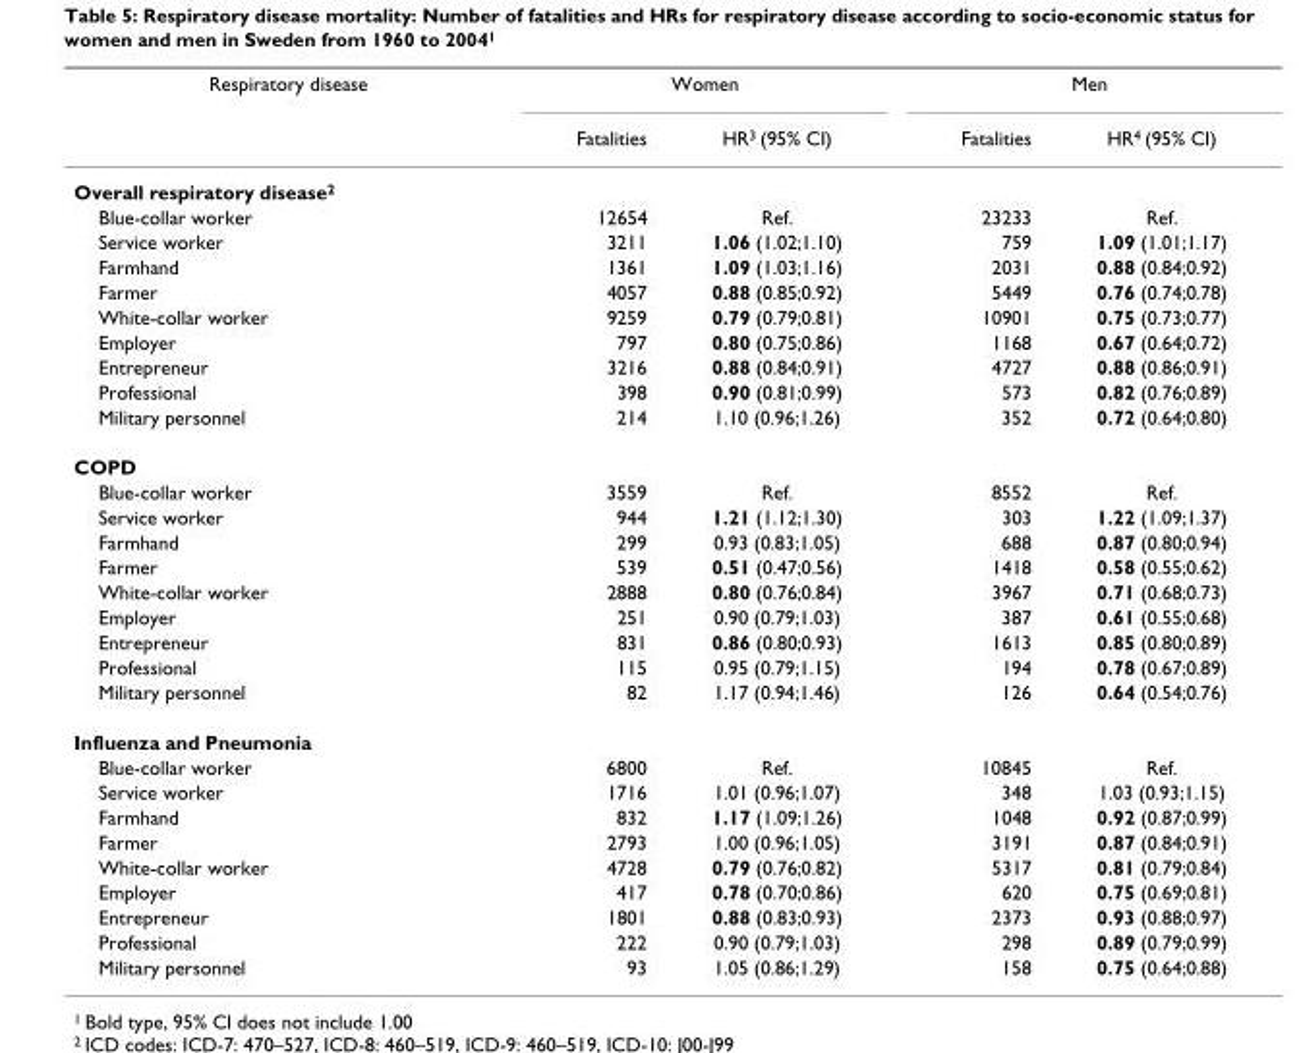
<table><thead><tr><td rowspan="2">Respiratory disease</td><td colspan="2">Women</td><td colspan="2">Men</td></tr><tr><td>Fatalities</td><td>HR<sup>3</sup> (95% CI)</td><td>Fatalities</td><td>HR<sup>4</sup> (95% CI)</td></tr></thead><tbody><tr><td colspan="5">Overall respiratory disease<sup>2</sup></td></tr><tr><td>Blue-collar worker</td><td>12654</td><td>Ref.</td><td>23233</td><td>Ref.</td></tr><tr><td>Service worker</td><td>3211</td><td>1.06 (1.02;1.10)</td><td>759</td><td>1.09 (1.01;1.17)</td></tr><tr><td>Farmhand</td><td>1361</td><td>1.09 (1.03;1.16)</td><td>2031</td><td>0.88 (0.84;0.92)</td></tr><tr><td>Farmer</td><td>4057</td><td>0.88 (0.85;0.92)</td><td>5449</td><td>0.76 (0.74;0.78)</td></tr><tr><td>White-collar worker</td><td>9259</td><td>0.79 (0.79;0.81)</td><td>10901</td><td>0.75 (0.73;0.77)</td></tr><tr><td>Employer</td><td>797</td><td>0.80 (0.75;0.86)</td><td>1168</td><td>0.67 (0.64;0.72)</td></tr><tr><td>Entrepreneur</td><td>3216</td><td>0.88 (0.84;0.91)</td><td>4727</td><td>0.88 (0.86;0.91)</td></tr><tr><td>Professional</td><td>398</td><td>0.90 (0.81;0.99)</td><td>573</td><td>0.82 (0.76;0.89)</td></tr><tr><td>Military personnel</td><td>214</td><td>1.10 (0.96;1.26)</td><td>352</td><td>0.72 (0.64;0.80)</td></tr><tr><td colspan="5">COPD</td></tr><tr><td>Blue-collar worker</td><td>3559</td><td>Ref.</td><td>8552</td><td>Ref.</td></tr><tr><td>Service worker</td><td>944</td><td>1.21 (1.12;1.30)</td><td>303</td><td>1.22 (1.09;1.37)</td></tr><tr><td>Farmhand</td><td>299</td><td>0.93 (0.83;1.05)</td><td>688</td><td>0.87 (0.80;0.94)</td></tr><tr><td>Farmer</td><td>539</td><td>0.51 (0.47;0.56)</td><td>1418</td><td>0.58 (0.55;0.62)</td></tr><tr><td>White-collar worker</td><td>2888</td><td>0.80 (0.76;0.84)</td><td>3967</td><td>0.71 (0.68;0.73)</td></tr><tr><td>Employer</td><td>251</td><td>0.90 (0.79;1.03)</td><td>387</td><td>0.61 (0.55;0.68)</td></tr><tr><td>Entrepreneur</td><td>831</td><td>0.86 (0.80;0.93)</td><td>1613</td><td>0.85 (0.80;0.89)</td></tr><tr><td>Professional</td><td>115</td><td>0.95 (0.79;1.15)</td><td>194</td><td>0.78 (0.67;0.89)</td></tr><tr><td>Military personnel</td><td>82</td><td>1.17 (0.94;1.46)</td><td>126</td><td>0.64 (0.54;0.76)</td></tr><tr><td colspan="5">Influenza and Pneumonia</td></tr><tr><td>Blue-collar worker</td><td>6800</td><td>Ref.</td><td>10845</td><td>Ref.</td></tr><tr><td>Service worker</td><td>1716</td><td>1.01 (0.96;1.07)</td><td>348</td><td>1.03 (0.93;1.15)</td></tr><tr><td>Farmhand</td><td>832</td><td>1.17 (1.09;1.26)</td><td>1048</td><td>0.92 (0.87;0.99)</td></tr><tr><td>Farmer</td><td>2793</td><td>1.00 (0.96;1.05)</td><td>3191</td><td>0.87 (0.84;0.91)</td></tr><tr><td>White-collar worker</td><td>4728</td><td>0.79 (0.76;0.82)</td><td>5317</td><td>0.81 (0.79;0.84)</td></tr><tr><td>Employer</td><td>417</td><td>0.78 (0.70;0.86)</td><td>620</td><td>0.75 (0.69;0.81)</td></tr><tr><td>Entrepreneur</td><td>1801</td><td>0.88 (0.83;0.93)</td><td>2373</td><td>0.93 (0.88;0.97)</td></tr><tr><td>Professional</td><td>222</td><td>0.90 (0.79;1.03)</td><td>298</td><td>0.89 (0.79;0.99)</td></tr><tr><td>Military personnel</td><td>93</td><td>1.05 (0.86;1.29)</td><td>158</td><td>0.75 (0.64;0.88)</td></tr></tbody></table>